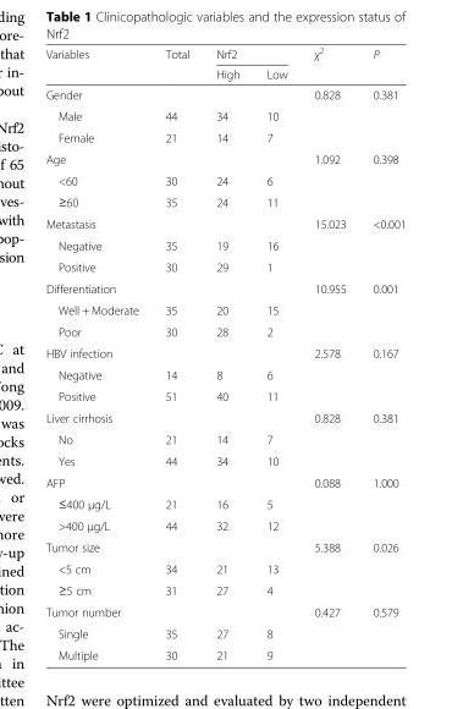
<table><thead><tr><td rowspan="2">Variables</td><td rowspan="2">Total</td><td colspan="2">Nrf2</td><td rowspan="2">χ<sup>2</sup></td><td rowspan="2">P</td></tr><tr><td>High</td><td>Low</td></tr></thead><tbody><tr><td>Gender</td><td></td><td></td><td></td><td>0.828</td><td>0.381</td></tr><tr><td>Male</td><td>44</td><td>34</td><td>10</td><td></td><td></td></tr><tr><td>Female</td><td>21</td><td>14</td><td>7</td><td></td><td></td></tr><tr><td>Age</td><td></td><td></td><td></td><td>1.092</td><td>0.398</td></tr><tr><td>&lt;60</td><td>30</td><td>24</td><td>6</td><td></td><td></td></tr><tr><td>≥60</td><td>35</td><td>24</td><td>11</td><td></td><td></td></tr><tr><td>Metastasis</td><td></td><td></td><td></td><td>15.023</td><td>&lt;0.001</td></tr><tr><td>Negative</td><td>35</td><td>19</td><td>16</td><td></td><td></td></tr><tr><td>Positive</td><td>30</td><td>29</td><td>1</td><td></td><td></td></tr><tr><td>Differentiation</td><td></td><td></td><td></td><td>10.955</td><td>0.001</td></tr><tr><td>Well + Moderate</td><td>35</td><td>20</td><td>15</td><td></td><td></td></tr><tr><td>Poor</td><td>30</td><td>28</td><td>2</td><td></td><td></td></tr><tr><td>HBV infection</td><td></td><td></td><td></td><td>2.578</td><td>0.167</td></tr><tr><td>Negative</td><td>14</td><td>8</td><td>6</td><td></td><td></td></tr><tr><td>Positive</td><td>51</td><td>40</td><td>11</td><td></td><td></td></tr><tr><td>Liver cirrhosis</td><td></td><td></td><td></td><td>0.828</td><td>0.381</td></tr><tr><td>No</td><td>21</td><td>14</td><td>7</td><td></td><td></td></tr><tr><td>Yes</td><td>44</td><td>34</td><td>10</td><td></td><td></td></tr><tr><td>AFP</td><td></td><td></td><td></td><td>0.088</td><td>1.000</td></tr><tr><td>≤400 μg/L</td><td>21</td><td>16</td><td>5</td><td></td><td></td></tr><tr><td>&gt;400 μg/L</td><td>44</td><td>32</td><td>12</td><td></td><td></td></tr><tr><td>Tumor size</td><td></td><td></td><td></td><td>5.388</td><td>0.026</td></tr><tr><td>&lt;5 cm</td><td>34</td><td>21</td><td>13</td><td></td><td></td></tr><tr><td>≥5 cm</td><td>31</td><td>27</td><td>4</td><td></td><td></td></tr><tr><td>Tumor number</td><td></td><td></td><td></td><td>0.427</td><td>0.579</td></tr><tr><td>Single</td><td>35</td><td>27</td><td>8</td><td></td><td></td></tr><tr><td>Multiple</td><td>30</td><td>21</td><td>9</td><td></td><td></td></tr></tbody></table>